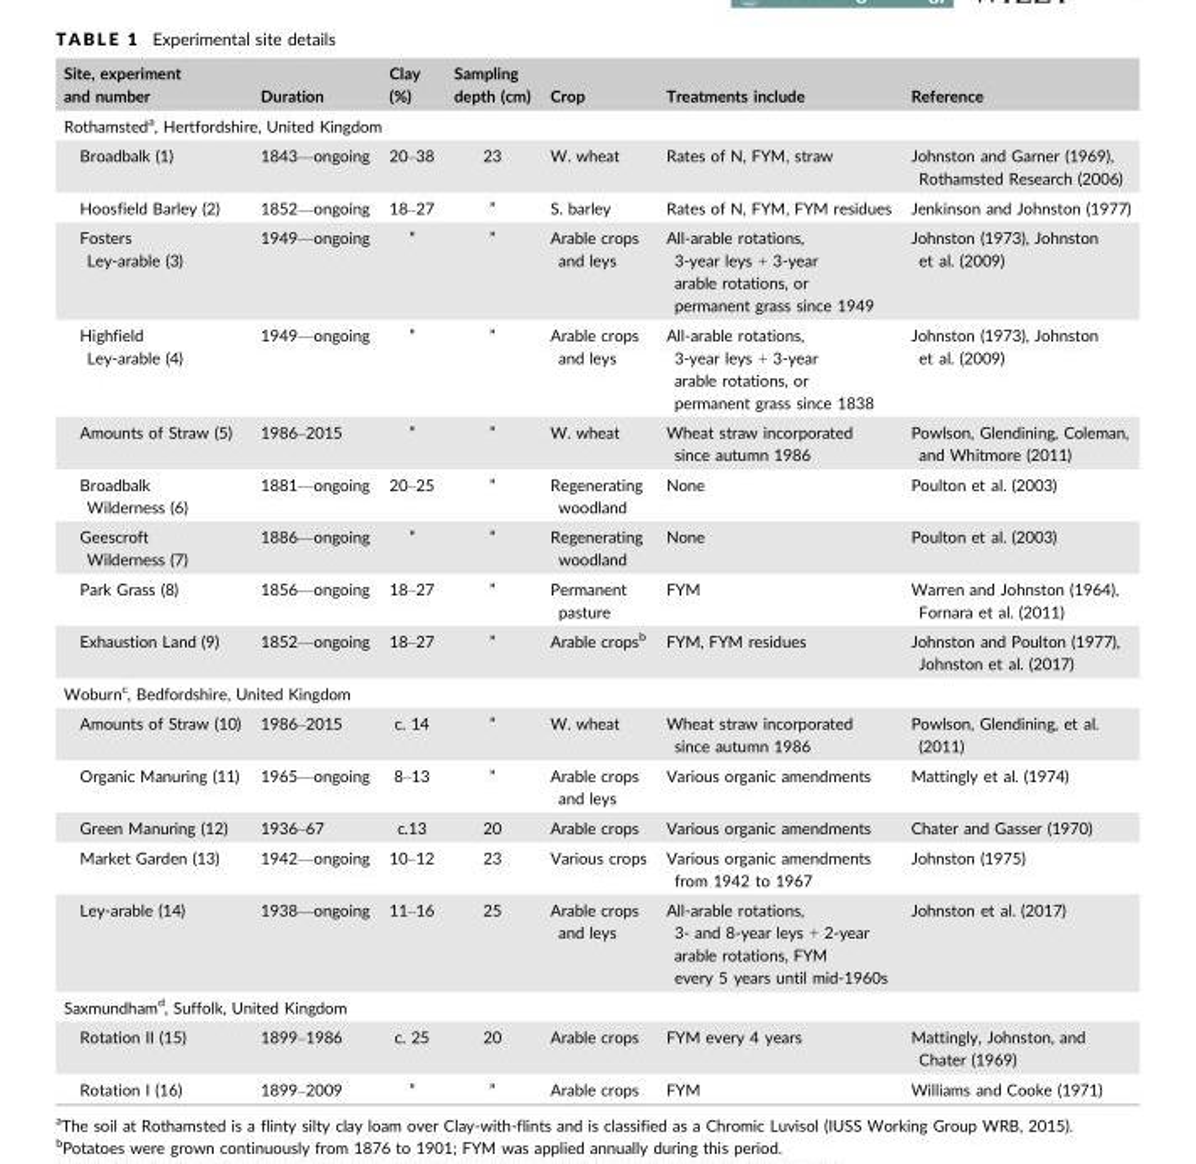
<table><thead><tr><td>Site, experiment and number</td><td>Duration</td><td>Clay (%)</td><td>Sampling depth (cm)</td><td>Crop</td><td>Treatments include</td><td>Reference</td></tr></thead><tbody><tr><td colspan="7">Rothamsted<sup>a</sup>, Hertfordshire, United Kingdom</td></tr><tr><td>Broadbalk (1)</td><td>1843—ongoing</td><td>20–38</td><td>23</td><td>W. wheat</td><td>Rates of N, FYM, straw</td><td>Johnston and Garner (1969), Rothamsted Research (2006)</td></tr><tr><td>Hoosfield Barley (2)</td><td>1852—ongoing</td><td>18–27</td><td>”</td><td>S. barley</td><td>Rates of N, FYM, FYM residues</td><td>Jenkinson and Johnston (1977)</td></tr><tr><td>Fosters Ley-arable (3)</td><td>1949—ongoing</td><td>”</td><td>”</td><td>Arable crops and leys</td><td>All-arable rotations, 3-year leys + 3-year arable rotations, or permanent grass since 1949</td><td>Johnston (1973), Johnston et al. (2009)</td></tr><tr><td>Highfield Ley-arable (4)</td><td>1949—ongoing</td><td>”</td><td>”</td><td>Arable crops and leys</td><td>All-arable rotations, 3-year leys + 3-year arable rotations, or permanent grass since 1838</td><td>Johnston (1973), Johnston et al. (2009)</td></tr><tr><td>Amounts of Straw (5)</td><td>1986–2015</td><td>”</td><td>”</td><td>W. wheat</td><td>Wheat straw incorporated since autumn 1986</td><td>Powlson, Glendining, Coleman, and Whitmore (2011)</td></tr><tr><td>Broadbalk Wilderness (6)</td><td>1881—ongoing</td><td>20–25</td><td>”</td><td>Regenerating woodland</td><td>None</td><td>Poulton et al. (2003)</td></tr><tr><td>Geescroft Wilderness (7)</td><td>1886—ongoing</td><td>”</td><td>”</td><td>Regenerating woodland</td><td>None</td><td>Poulton et al. (2003)</td></tr><tr><td>Park Grass (8)</td><td>1856—ongoing</td><td>18–27</td><td>”</td><td>Permanent pasture</td><td>FYM</td><td>Warren and Johnston (1964), Fornara et al. (2011)</td></tr><tr><td>Exhaustion Land (9)</td><td>1852—ongoing</td><td>18–27</td><td>”</td><td>Arable crops<sup>b</sup></td><td>FYM, FYM residues</td><td>Johnston and Poulton (1977), Johnston et al. (2017)</td></tr><tr><td colspan="7">Woburn<sup>c</sup>, Bedfordshire, United Kingdom</td></tr><tr><td>Amounts of Straw (10)</td><td>1986–2015</td><td>c. 14</td><td>”</td><td>W. wheat</td><td>Wheat straw incorporated since autumn 1986</td><td>Powlson, Glendining, et al. (2011)</td></tr><tr><td>Organic Manuring (11)</td><td>1965—ongoing</td><td>8–13</td><td>”</td><td>Arable crops and leys</td><td>Various organic amendments</td><td>Mattingly et al. (1974)</td></tr><tr><td>Green Manuring (12)</td><td>1936–67</td><td>c.13</td><td>20</td><td>Arable crops</td><td>Various organic amendments</td><td>Chater and Gasser (1970)</td></tr><tr><td>Market Garden (13)</td><td>1942—ongoing</td><td>10–12</td><td>23</td><td>Various crops</td><td>Various organic amendments from 1942 to 1967</td><td>Johnston (1975)</td></tr><tr><td>Ley-arable (14)</td><td>1938—ongoing</td><td>11–16</td><td>25</td><td>Arable crops and leys</td><td>All-arable rotations, 3- and 8-year leys + 2-year arable rotations, FYM every 5 years until mid-1960s</td><td>Johnston et al. (2017)</td></tr><tr><td colspan="7">Saxmundham<sup>d</sup>, Suffolk, United Kingdom</td></tr><tr><td>Rotation II (15)</td><td>1899–1986</td><td>c. 25</td><td>20</td><td>Arable crops</td><td>FYM every 4 years</td><td>Mattingly, Johnston, and Chater (1969)</td></tr><tr><td>Rotation I (16)</td><td>1899–2009</td><td>”</td><td>”</td><td>Arable crops</td><td>FYM</td><td>Williams and Cooke (1971)</td></tr></tbody></table>